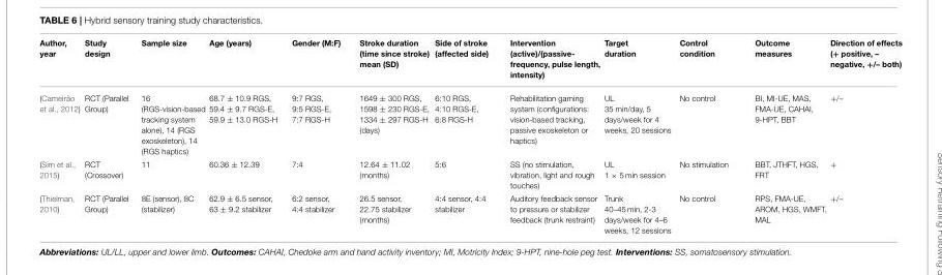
<table><thead><tr><td>Author, year</td><td>Study design</td><td>Sample size</td><td>Age (years)</td><td>Gender (M:F)</td><td>Stroke duration (time since stroke) mean (SD)</td><td>Side of stroke (affected side)</td><td>Intervention (active)/(passive- frequency, pulse length, intensity)</td><td>Target duration</td><td>Control condition</td><td>Outcome measures</td><td>Direction of effects (+ positive, – negative, +/– both)</td></tr></thead><tbody><tr><td>(Cameirão et al., 2012)</td><td>RCT (Parallel Group)</td><td>16 (RGS-vision-based tracking system alone), 14 (RGS exoskeleton), 14 (RGS haptics)</td><td>68.7 ± 10.9 RGS, 59.4 ± 9.7 RGS-E, 59.9 ± 13.0 RGS-H</td><td>9:7 RGS, 9:5 RGS-E, 7:7 RGS-H</td><td>1649 ± 300 RGS, 1598 ± 230 RGS-E, 1334 ± 297 RGS-H (days)</td><td>6:10 RGS, 4:10 RGS-E, 6:8 RGS-H</td><td>Rehabilitation gaming system (configurations: vision-based tracking, passive exoskeleton or haptics)</td><td>UL 35 min/day, 5 days/week for 4 weeks, 20 sessions</td><td>No control</td><td>BI, MI-UE, MAS, FMA-UE, CAHAI, 9-HPT, BBT</td><td>+/–</td></tr><tr><td>(Sim et al., 2015)</td><td>RCT (Crossover)</td><td>11</td><td>60.36 ± 12.39</td><td>7:4</td><td>12.64 ± 11.02 (months)</td><td>5:6</td><td>SS (no stimulation, vibration, light and rough touches)</td><td>UL 1 × 5 min session</td><td>No stimulation</td><td>BBT, JTHFT, HGS, FRT</td><td>+</td></tr><tr><td>(Thielman, 2010)</td><td>RCT (Parallel Group)</td><td>8E (sensor), 8C (stabilizer)</td><td>62.9 ± 6.5 sensor, 63 ± 9.2 stabilizer</td><td>6:2 sensor, 4:4 stabilizer</td><td>26.5 sensor, 22.75 stabilizer (months)</td><td>4:4 sensor, 4:4 stabilizer</td><td>Auditory feedback sensor to pressure or stabilizer feedback (trunk restraint)</td><td>Trunk 40–45 min, 2-3 days/week for 4–6 weeks, 12 sessions</td><td>No control</td><td>RPS, FMA-UE, AROM, HGS, WMFT, MAL</td><td>+/–</td></tr></tbody></table>